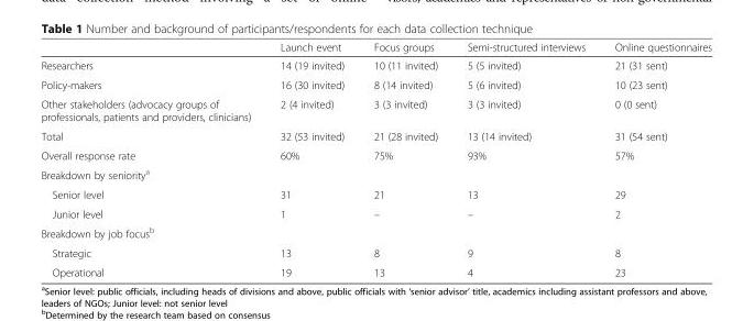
<table><thead><tr><td></td><td>Launch event</td><td>Focus groups</td><td>Semi-structured interviews</td><td>Online questionnaires</td></tr></thead><tbody><tr><td>Researchers</td><td>14 (19 invited)</td><td>10 (11 invited)</td><td>5 (5 invited)</td><td>21 (31 sent)</td></tr><tr><td>Policy-makers</td><td>16 (30 invited)</td><td>8 (14 invited)</td><td>5 (6 invited)</td><td>10 (23 sent)</td></tr><tr><td>Other stakeholders (advocacy groups of professionals, patients and providers, clinicians)</td><td>2 (4 invited)</td><td>3 (3 invited)</td><td>3 (3 invited)</td><td>0 (0 sent)</td></tr><tr><td>Total</td><td>32 (53 invited)</td><td>21 (28 invited)</td><td>13 (14 invited)</td><td>31 (54 sent)</td></tr><tr><td>Overall response rate</td><td>60%</td><td>75%</td><td>93%</td><td>57%</td></tr><tr><td colspan="5">Breakdown by seniority<sup>a</sup></td></tr><tr><td>Senior level</td><td>31</td><td>21</td><td>13</td><td>29</td></tr><tr><td>Junior level</td><td>1</td><td>–</td><td>–</td><td>2</td></tr><tr><td colspan="5">Breakdown by job focus<sup>b</sup></td></tr><tr><td>Strategic</td><td>13</td><td>8</td><td>9</td><td>8</td></tr><tr><td>Operational</td><td>19</td><td>13</td><td>4</td><td>23</td></tr></tbody></table>